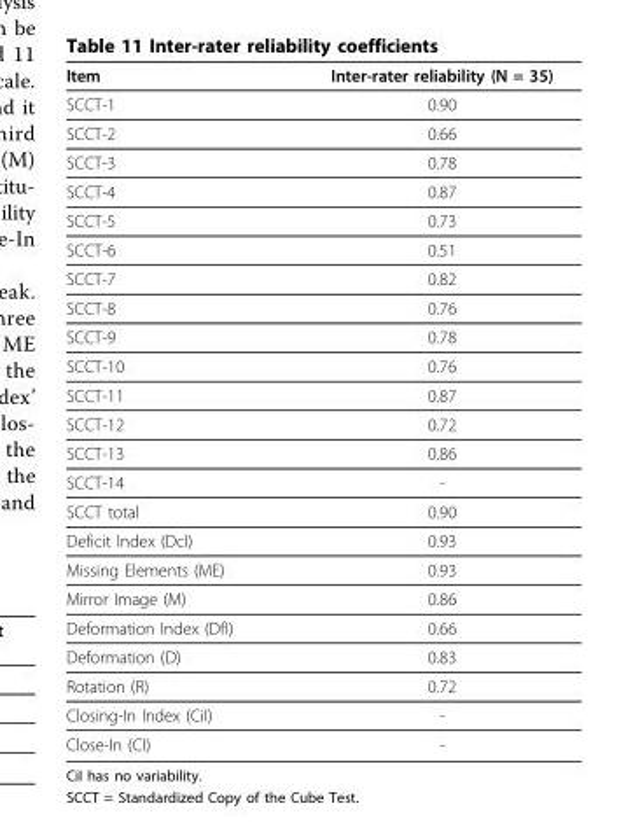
<table><thead><tr><td>Item</td><td>Inter-rater reliability (N = 35)</td></tr></thead><tbody><tr><td>SCCT-1</td><td>0.90</td></tr><tr><td>SCCT-2</td><td>0.66</td></tr><tr><td>SCCT-3</td><td>0.78</td></tr><tr><td>SCCT-4</td><td>0.87</td></tr><tr><td>SCCT-5</td><td>0.73</td></tr><tr><td>SCCT-6</td><td>0.51</td></tr><tr><td>SCCT-7</td><td>0.82</td></tr><tr><td>SCCT-8</td><td>0.76</td></tr><tr><td>SCCT-9</td><td>0.78</td></tr><tr><td>SCCT-10</td><td>0.76</td></tr><tr><td>SCCT-11</td><td>0.87</td></tr><tr><td>SCCT-12</td><td>0.72</td></tr><tr><td>SCCT-13</td><td>0.86</td></tr><tr><td>SCCT-14</td><td>-</td></tr><tr><td>SCCT total</td><td>0.90</td></tr><tr><td>Deficit Index (DcI)</td><td>0.93</td></tr><tr><td>Missing Elements (ME)</td><td>0.93</td></tr><tr><td>Mirror Image (M)</td><td>0.86</td></tr><tr><td>Deformation Index (DfI)</td><td>0.66</td></tr><tr><td>Deformation (D)</td><td>0.83</td></tr><tr><td>Rotation (R)</td><td>0.72</td></tr><tr><td>Closing-In Index (CiI)</td><td>-</td></tr><tr><td>Close-In (CI)</td><td>-</td></tr></tbody></table>